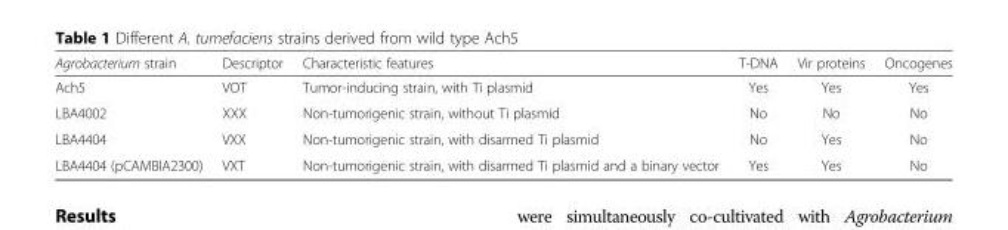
<table><thead><tr><td>Agrobacterium strain</td><td>Descriptor</td><td>Characteristic features</td><td>T-DNA</td><td>Vir proteins</td><td>Oncogenes</td></tr></thead><tbody><tr><td>Ach5</td><td>VOT</td><td>Tumor-inducing strain, with Ti plasmid</td><td>Yes</td><td>Yes</td><td>Yes</td></tr><tr><td>LBA4002</td><td>XXX</td><td>Non-tumorigenic strain, without Ti plasmid</td><td>No</td><td>No</td><td>No</td></tr><tr><td>LBA4404</td><td>VXX</td><td>Non-tumorigenic strain, with disarmed Ti plasmid</td><td>No</td><td>Yes</td><td>No</td></tr><tr><td>LBA4404 (pCAMBIA2300)</td><td>VXT</td><td>Non-tumorigenic strain, with disarmed Ti plasmid and a binary vector</td><td>Yes</td><td>Yes</td><td>No</td></tr></tbody></table>